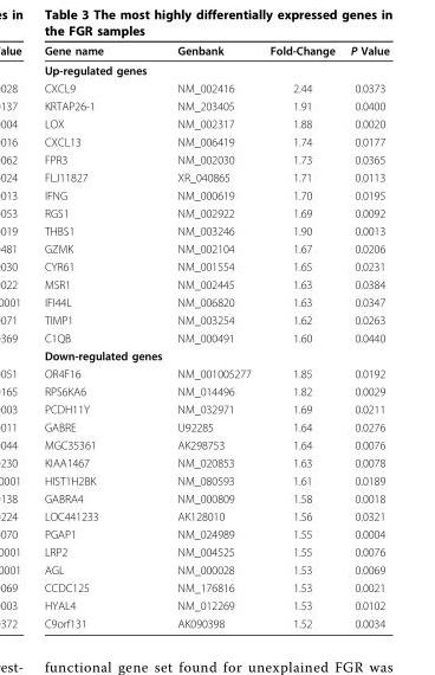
<table><thead><tr><td>Gene name</td><td>Genbank</td><td>Fold-Change</td><td>P Value</td></tr></thead><tbody><tr><td colspan="4">Up-regulated genes</td></tr><tr><td>CXCL9</td><td>NM_002416</td><td>2.44</td><td>0.0373</td></tr><tr><td>KRTAP26-1</td><td>NM_203405</td><td>1.91</td><td>0.0400</td></tr><tr><td>LOX</td><td>NM_002317</td><td>1.88</td><td>0.0020</td></tr><tr><td>CXCL13</td><td>NM_006419</td><td>1.74</td><td>0.0177</td></tr><tr><td>FPR3</td><td>NM_002030</td><td>1.73</td><td>0.0365</td></tr><tr><td>FLJ11827</td><td>XR_040865</td><td>1.71</td><td>0.0113</td></tr><tr><td>IFNG</td><td>NM_000619</td><td>1.70</td><td>0.0195</td></tr><tr><td>RGS1</td><td>NM_002922</td><td>1.69</td><td>0.0092</td></tr><tr><td>THBS1</td><td>NM_003246</td><td>1.90</td><td>0.0013</td></tr><tr><td>GZMK</td><td>NM_002104</td><td>1.67</td><td>0.0206</td></tr><tr><td>CYR61</td><td>NM_001554</td><td>1.65</td><td>0.0231</td></tr><tr><td>MSR1</td><td>NM_002445</td><td>1.63</td><td>0.0384</td></tr><tr><td>IFI44L</td><td>NM_006820</td><td>1.63</td><td>0.0347</td></tr><tr><td>TIMP1</td><td>NM_003254</td><td>1.62</td><td>0.0263</td></tr><tr><td>C1QB</td><td>NM_000491</td><td>1.60</td><td>0.0440</td></tr><tr><td colspan="4">Down-regulated genes</td></tr><tr><td>OR4F16</td><td>NM_001005277</td><td>1.85</td><td>0.0192</td></tr><tr><td>RPS6KA6</td><td>NM_014496</td><td>1.82</td><td>0.0029</td></tr><tr><td>PCDH11Y</td><td>NM_032971</td><td>1.69</td><td>0.0211</td></tr><tr><td>GABRE</td><td>U92285</td><td>1.64</td><td>0.0276</td></tr><tr><td>MGC35361</td><td>AK298753</td><td>1.64</td><td>0.0076</td></tr><tr><td>KIAA1467</td><td>NM_020853</td><td>1.63</td><td>0.0078</td></tr><tr><td>HIST1H2BK</td><td>NM_080593</td><td>1.61</td><td>0.0189</td></tr><tr><td>GABRA4</td><td>NM_000809</td><td>1.58</td><td>0.0018</td></tr><tr><td>LOC441233</td><td>AK128010</td><td>1.56</td><td>0.0321</td></tr><tr><td>PGAP1</td><td>NM_024989</td><td>1.55</td><td>0.0004</td></tr><tr><td>LRP2</td><td>NM_004525</td><td>1.55</td><td>0.0076</td></tr><tr><td>AGL</td><td>NM_000028</td><td>1.53</td><td>0.0069</td></tr><tr><td>CCDC125</td><td>NM_176816</td><td>1.53</td><td>0.0021</td></tr><tr><td>HYAL4</td><td>NM_012269</td><td>1.53</td><td>0.0102</td></tr><tr><td>C9orf131</td><td>AK090398</td><td>1.52</td><td>0.0034</td></tr></tbody></table>